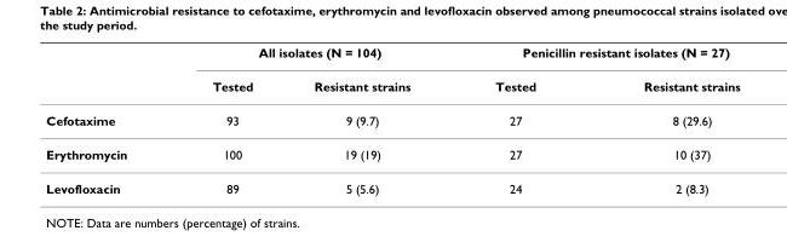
<table><thead><tr><td rowspan="2"></td><td colspan="2">All isolates (N = 104)</td><td colspan="2">Penicillin resistant isolates (N = 27)</td></tr><tr><td>Tested</td><td>Resistant strains</td><td>Tested</td><td>Resistant strains</td></tr></thead><tbody><tr><td>Cefotaxime</td><td>93</td><td>9 (9.7)</td><td>27</td><td>8 (29.6)</td></tr><tr><td>Erythromycin</td><td>100</td><td>19 (19)</td><td>27</td><td>10 (37)</td></tr><tr><td>Levofloxacin</td><td>89</td><td>5 (5.6)</td><td>24</td><td>2 (8.3)</td></tr></tbody></table>